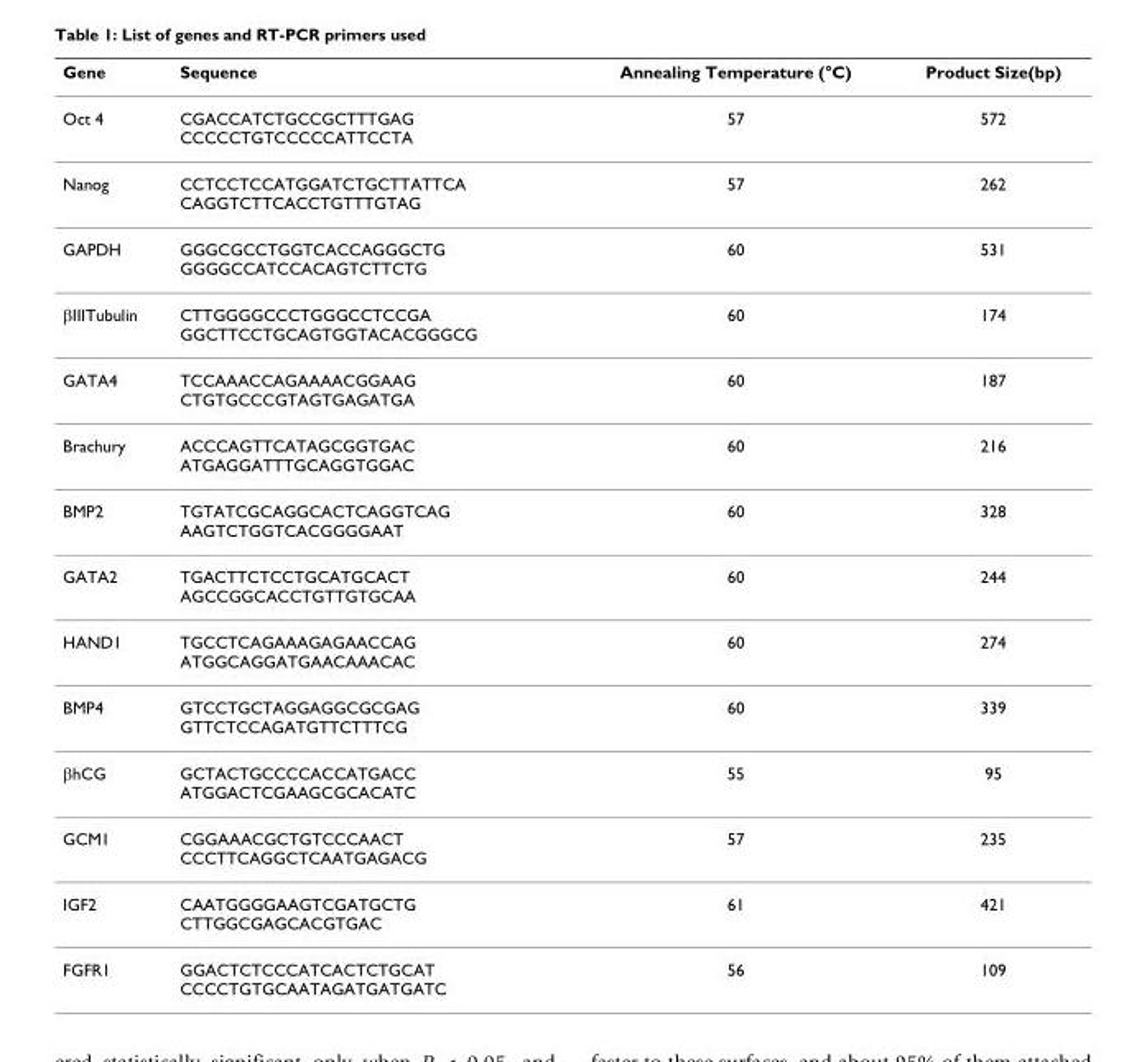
<table><thead><tr><td>Gene</td><td>Sequence</td><td>Annealing Temperature (°C)</td><td>Product Size(bp)</td></tr></thead><tbody><tr><td>Oct 4</td><td>CGACCATCTGCCGCTTTGAG CCCCCTGTCCCCCATTCCTA</td><td>57</td><td>572</td></tr><tr><td>Nanog</td><td>CCTCCTCCATGGATCTGCTTATTCA CAGGTCTTCACCTGTTTGTAG</td><td>57</td><td>262</td></tr><tr><td>GAPDH</td><td>GGGCGCCTGGTCACCAGGGCTG GGGGCCATCCACAGTCTTCTG</td><td>60</td><td>531</td></tr><tr><td>βIIITubulin</td><td>CTTGGGGCCCTGGGCCTCCGA GGCTTCCTGCAGTGGTACACGGGCG</td><td>60</td><td>174</td></tr><tr><td>GATA4</td><td>TCCAAACCAGAAAACGGAAG CTGTGCCCGTAGTGAGATGA</td><td>60</td><td>187</td></tr><tr><td>Brachury</td><td>ACCCAGTTCATAGCGGTGAC ATGAGGATTTGCAGGTGGAC</td><td>60</td><td>216</td></tr><tr><td>BMP2</td><td>TGTATCGCAGGCACTCAGGTCAG AAGTCTGGTCACGGGGAAT</td><td>60</td><td>328</td></tr><tr><td>GATA2</td><td>TGACTTCTCCTGCATGCACT AGCCGGCACCTGTTGTGCAA</td><td>60</td><td>244</td></tr><tr><td>HAND1</td><td>TGCCTCAGAAAGAGAACCAG ATGGCAGGATGAACAAACAC</td><td>60</td><td>274</td></tr><tr><td>BMP4</td><td>GTCCTGCTAGGAGGCGCGAG GTTCTCCAGATGTTCTTTCG</td><td>60</td><td>339</td></tr><tr><td>βhCG</td><td>GCTACTGCCCCACCATGACC ATGGACTCGAAGCGCACATC</td><td>55</td><td>95</td></tr><tr><td>GCM1</td><td>CGGAAACGCTGTCCCAACT CCCTTCAGGCTCAATGAGACG</td><td>57</td><td>235</td></tr><tr><td>IGF2</td><td>CAATGGGGAAGTCGATGCTG CTTGGCGAGCACGTGAC</td><td>61</td><td>421</td></tr><tr><td>FGFR1</td><td>GGACTCTCCCATCACTCTGCAT CCCCTGTGCAATAGATGATGATC</td><td>56</td><td>109</td></tr></tbody></table>